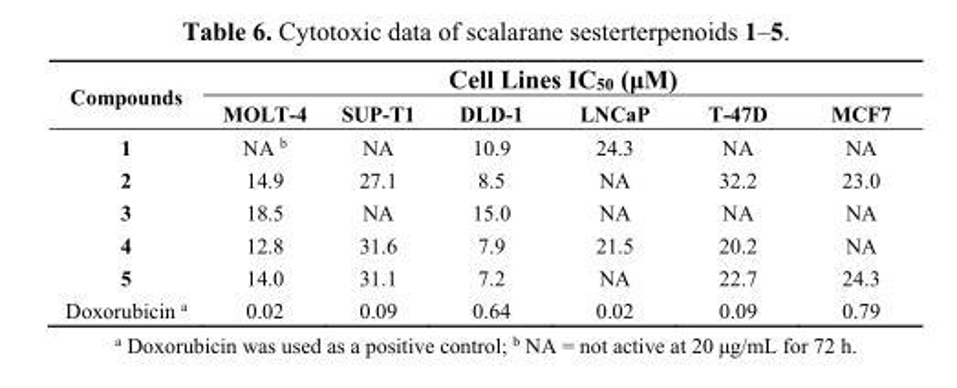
<table><thead><tr><td rowspan="2">Compounds</td><td colspan="6">Cell Lines IC<sub>50</sub> (μM)</td></tr><tr><td>MOLT-4</td><td>SUP-T1</td><td>DLD-1</td><td>LNCaP</td><td>T-47D</td><td>MCF7</td></tr></thead><tbody><tr><td>1</td><td>NA <sup>b</sup></td><td>NA</td><td>10.9</td><td>24.3</td><td>NA</td><td>NA</td></tr><tr><td>2</td><td>14.9</td><td>27.1</td><td>8.5</td><td>NA</td><td>32.2</td><td>23.0</td></tr><tr><td>3</td><td>18.5</td><td>NA</td><td>15.0</td><td>NA</td><td>NA</td><td>NA</td></tr><tr><td>4</td><td>12.8</td><td>31.6</td><td>7.9</td><td>21.5</td><td>20.2</td><td>NA</td></tr><tr><td>5</td><td>14.0</td><td>31.1</td><td>7.2</td><td>NA</td><td>22.7</td><td>24.3</td></tr><tr><td>Doxorubicin <sup>a</sup></td><td>0.02</td><td>0.09</td><td>0.64</td><td>0.02</td><td>0.09</td><td>0.79</td></tr></tbody></table>